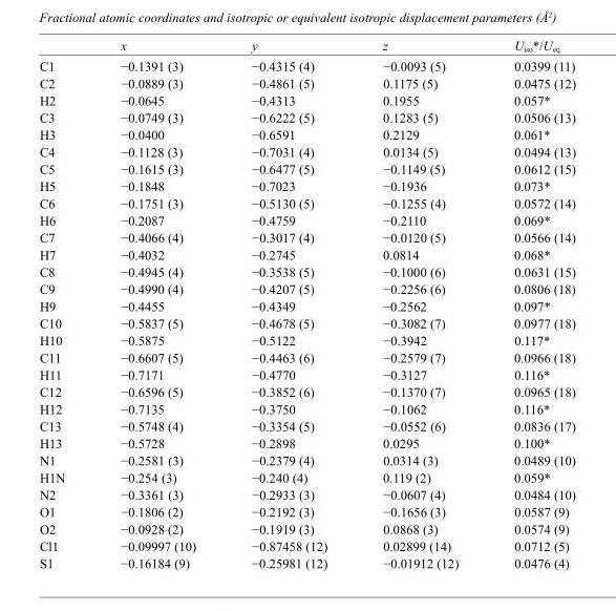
<table><thead><tr><td></td><td>x</td><td>y</td><td>z</td><td>U<sub>iso</sub>*/U<sub>eq</sub></td></tr></thead><tbody><tr><td>C1</td><td>−0.1391 (3)</td><td>−0.4315 (4)</td><td>−0.0093 (5)</td><td>0.0399 (11)</td></tr><tr><td>C2</td><td>−0.0889 (3)</td><td>−0.4861 (5)</td><td>0.1175 (5)</td><td>0.0475 (12)</td></tr><tr><td>H2</td><td>−0.0645</td><td>−0.4313</td><td>0.1955</td><td>0.057*</td></tr><tr><td>C3</td><td>−0.0749 (3)</td><td>−0.6222 (5)</td><td>0.1283 (5)</td><td>0.0506 (13)</td></tr><tr><td>H3</td><td>−0.0400</td><td>−0.6591</td><td>0.2129</td><td>0.061*</td></tr><tr><td>C4</td><td>−0.1128 (3)</td><td>−0.7031 (4)</td><td>0.0134 (5)</td><td>0.0494 (13)</td></tr><tr><td>C5</td><td>−0.1615 (3)</td><td>−0.6477 (5)</td><td>−0.1149 (5)</td><td>0.0612 (15)</td></tr><tr><td>H5</td><td>−0.1848</td><td>−0.7023</td><td>−0.1936</td><td>0.073*</td></tr><tr><td>C6</td><td>−0.1751 (3)</td><td>−0.5130 (5)</td><td>−0.1255 (4)</td><td>0.0572 (14)</td></tr><tr><td>H6</td><td>−0.2087</td><td>−0.4759</td><td>−0.2110</td><td>0.069*</td></tr><tr><td>C7</td><td>−0.4066 (4)</td><td>−0.3017 (4)</td><td>−0.0120 (5)</td><td>0.0566 (14)</td></tr><tr><td>H7</td><td>−0.4032</td><td>−0.2745</td><td>0.0814</td><td>0.068*</td></tr><tr><td>C8</td><td>−0.4945 (4)</td><td>−0.3538 (5)</td><td>−0.1000 (6)</td><td>0.0631 (15)</td></tr><tr><td>C9</td><td>−0.4990 (4)</td><td>−0.4207 (5)</td><td>−0.2256 (6)</td><td>0.0806 (18)</td></tr><tr><td>H9</td><td>−0.4455</td><td>−0.4349</td><td>−0.2562</td><td>0.097*</td></tr><tr><td>C10</td><td>−0.5837 (5)</td><td>−0.4678 (5)</td><td>−0.3082 (7)</td><td>0.0977 (18)</td></tr><tr><td>H10</td><td>−0.5875</td><td>−0.5122</td><td>−0.3942</td><td>0.117*</td></tr><tr><td>C11</td><td>−0.6607 (5)</td><td>−0.4463 (6)</td><td>−0.2579 (7)</td><td>0.0966 (18)</td></tr><tr><td>H11</td><td>−0.7171</td><td>−0.4770</td><td>−0.3127</td><td>0.116*</td></tr><tr><td>C12</td><td>−0.6596 (5)</td><td>−0.3852 (6)</td><td>−0.1370 (7)</td><td>0.0965 (18)</td></tr><tr><td>H12</td><td>−0.7135</td><td>−0.3750</td><td>−0.1062</td><td>0.116*</td></tr><tr><td>C13</td><td>−0.5748 (4)</td><td>−0.3354 (5)</td><td>−0.0552 (6)</td><td>0.0836 (17)</td></tr><tr><td>H13</td><td>−0.5728</td><td>−0.2898</td><td>0.0295</td><td>0.100*</td></tr><tr><td>N1</td><td>−0.2581 (3)</td><td>−0.2379 (4)</td><td>0.0314 (3)</td><td>0.0489 (10)</td></tr><tr><td>H1N</td><td>−0.254 (3)</td><td>−0.240 (4)</td><td>0.119 (2)</td><td>0.059*</td></tr><tr><td>N2</td><td>−0.3361 (3)</td><td>−0.2933 (3)</td><td>−0.0607 (4)</td><td>0.0484 (10)</td></tr><tr><td>O1</td><td>−0.1806 (2)</td><td>−0.2192 (3)</td><td>−0.1656 (3)</td><td>0.0587 (9)</td></tr><tr><td>O2</td><td>−0.0928 (2)</td><td>−0.1919 (3)</td><td>0.0868 (3)</td><td>0.0574 (9)</td></tr><tr><td>Cl1</td><td>−0.09997 (10)</td><td>−0.87458 (12)</td><td>0.02899 (14)</td><td>0.0712 (5)</td></tr><tr><td>S1</td><td>−0.16184 (9)</td><td>−0.25981 (12)</td><td>−0.01912 (12)</td><td>0.0476 (4)</td></tr></tbody></table>